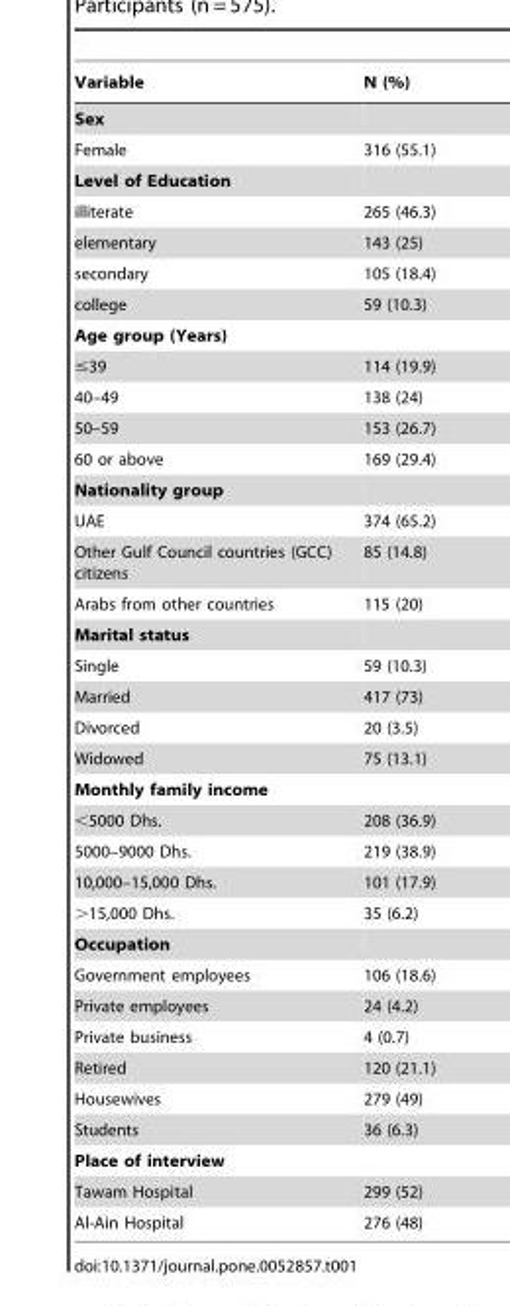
<table><thead><tr><td>Variable</td><td>N (%)</td></tr></thead><tbody><tr><td colspan="2">Sex</td></tr><tr><td>Female</td><td>316 (55.1)</td></tr><tr><td colspan="2">Level of Education</td></tr><tr><td>illiterate</td><td>265 (46.3)</td></tr><tr><td>elementary</td><td>143 (25)</td></tr><tr><td>secondary</td><td>105 (18.4)</td></tr><tr><td>college</td><td>59 (10.3)</td></tr><tr><td colspan="2">Age group (Years)</td></tr><tr><td>≤39</td><td>114 (19.9)</td></tr><tr><td>40–49</td><td>138 (24)</td></tr><tr><td>50–59</td><td>153 (26.7)</td></tr><tr><td>60 or above</td><td>169 (29.4)</td></tr><tr><td colspan="2">Nationality group</td></tr><tr><td>UAE</td><td>374 (65.2)</td></tr><tr><td>Other Gulf Council countries (GCC) citizens</td><td>85 (14.8)</td></tr><tr><td>Arabs from other countries</td><td>115 (20)</td></tr><tr><td colspan="2">Marital status</td></tr><tr><td>Single</td><td>59 (10.3)</td></tr><tr><td>Married</td><td>417 (73)</td></tr><tr><td>Divorced</td><td>20 (3.5)</td></tr><tr><td>Widowed</td><td>75 (13.1)</td></tr><tr><td colspan="2">Monthly family income</td></tr><tr><td>&lt;5000 Dhs.</td><td>208 (36.9)</td></tr><tr><td>5000–9000 Dhs.</td><td>219 (38.9)</td></tr><tr><td>10,000–15,000 Dhs.</td><td>101 (17.9)</td></tr><tr><td>&gt;15,000 Dhs.</td><td>35 (6.2)</td></tr><tr><td colspan="2">Occupation</td></tr><tr><td>Government employees</td><td>106 (18.6)</td></tr><tr><td>Private employees</td><td>24 (4.2)</td></tr><tr><td>Private business</td><td>4 (0.7)</td></tr><tr><td>Retired</td><td>120 (21.1)</td></tr><tr><td>Housewives</td><td>279 (49)</td></tr><tr><td>Students</td><td>36 (6.3)</td></tr><tr><td colspan="2">Place of interview</td></tr><tr><td>Tawam Hospital</td><td>299 (52)</td></tr><tr><td>Al-Ain Hospital</td><td>276 (48)</td></tr></tbody></table>